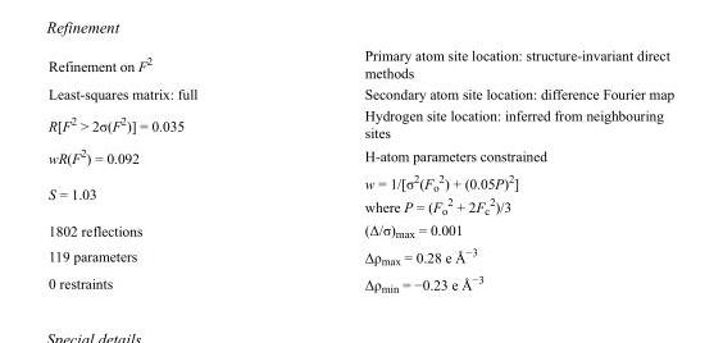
<table><tbody><tr><td>Refinement on F<sup>2</sup></td><td>Primary atom site location: structure-invariant direct methods</td></tr><tr><td>Least-squares matrix: full</td><td>Secondary atom site location: difference Fourier map</td></tr><tr><td>R[F<sup>2</sup> &gt; 2σ(F<sup>2</sup>)] = 0.035</td><td>Hydrogen site location: inferred from neighbouring sites</td></tr><tr><td>wR(F<sup>2</sup>) = 0.092</td><td>H-atom parameters constrained</td></tr><tr><td>S = 1.03</td><td>w = 1/[σ<sup>2</sup>(F<sub>o</sub> <sup>2</sup>) + (0.05P)<sup>2</sup>] where P = (F<sub>o</sub> <sup>2</sup> + 2F<sub>c</sub> <sup>2</sup>)/3</td></tr><tr><td>1802 reflections</td><td>(Δ/σ)<sub>max</sub> = 0.001</td></tr><tr><td>119 parameters</td><td>Δρ<sub>max</sub> = 0.28 e Å<sup>−3</sup></td></tr><tr><td>0 restraints</td><td>Δρ<sub>min</sub> = −0.23 e Å<sup>−3</sup></td></tr></tbody></table>